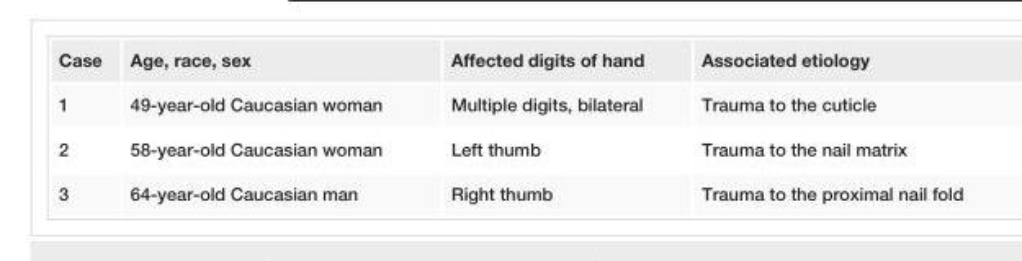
<table><tbody><tr><td>Case</td><td>Age, race, sex</td><td>Affected digits of hand</td><td>Associated etiology</td></tr><tr><td>1</td><td>49-year-old Caucasian woman</td><td>Multiple digits, bilateral</td><td>Trauma to the cuticle</td></tr><tr><td>2</td><td>58-year-old Caucasian woman</td><td>Left thumb</td><td>Trauma to the nail matrix</td></tr><tr><td>3</td><td>64-year-old Caucasian man</td><td>Right thumb</td><td>Trauma to the proximal nail fold</td></tr></tbody></table>